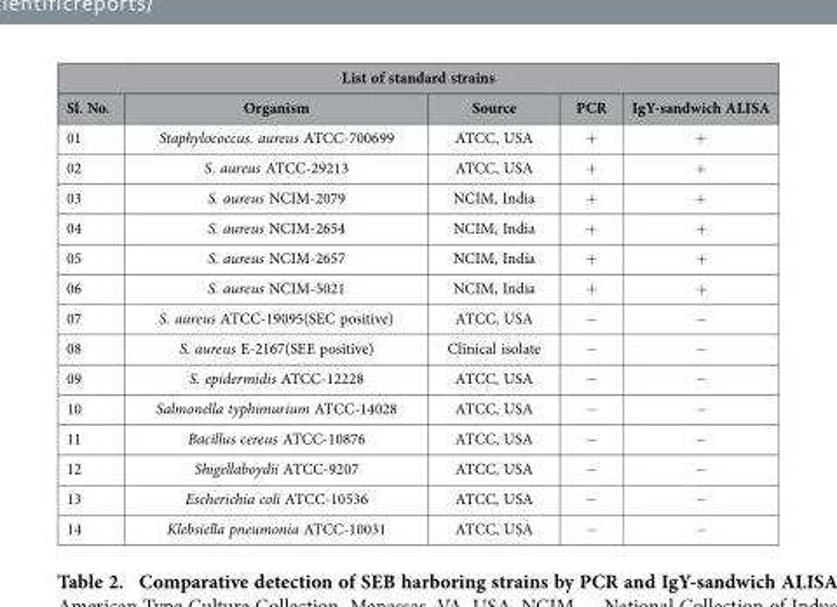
<table><thead><tr><td colspan="5">List of standard strains</td></tr><tr><td>Sl. No.</td><td>Organism</td><td>Source</td><td>PCR</td><td>IgY-sandwich ALISA</td></tr></thead><tbody><tr><td>01</td><td>Staphylococcus. aureus ATCC-700699</td><td>ATCC, USA</td><td>+</td><td>+</td></tr><tr><td>02</td><td>S. aureus ATCC-29213</td><td>ATCC, USA</td><td>+</td><td>+</td></tr><tr><td>03</td><td>S. aureus NCIM-2079</td><td>NCIM, India</td><td>+</td><td>+</td></tr><tr><td>04</td><td>S. aureus NCIM-2654</td><td>NCIM, India</td><td>+</td><td>+</td></tr><tr><td>05</td><td>S. aureus NCIM-2657</td><td>NCIM, India</td><td>+</td><td>+</td></tr><tr><td>06</td><td>S. aureus NCIM-5021</td><td>NCIM, India</td><td>+</td><td>+</td></tr><tr><td>07</td><td>S. aureus ATCC-19095(SEC positive)</td><td>ATCC, USA</td><td>−</td><td>−</td></tr><tr><td>08</td><td>S. aureus E-2167(SEE positive)</td><td>Clinical isolate</td><td>−</td><td>−</td></tr><tr><td>09</td><td>S. epidermidis ATCC-12228</td><td>ATCC, USA</td><td>−</td><td>−</td></tr><tr><td>10</td><td>Salmonella typhimurium ATCC-14028</td><td>ATCC, USA</td><td>−</td><td>−</td></tr><tr><td>11</td><td>Bacillus cereus ATCC-10876</td><td>ATCC, USA</td><td>−</td><td>−</td></tr><tr><td>12</td><td>Shigellaboydii ATCC-9207</td><td>ATCC, USA</td><td>−</td><td>−</td></tr><tr><td>13</td><td>Escherichia coli ATCC-10536</td><td>ATCC, USA</td><td>−</td><td>−</td></tr><tr><td>14</td><td>Klebsiella pneumonia ATCC-10031</td><td>ATCC, USA</td><td>−</td><td>−</td></tr></tbody></table>